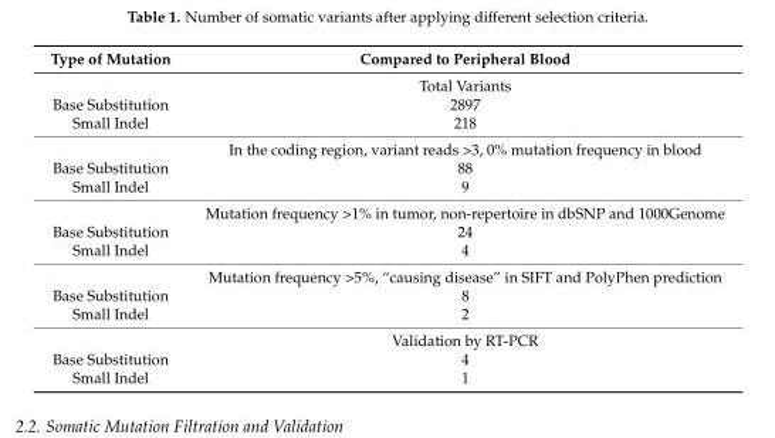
<table><thead><tr><td>Type of Mutation</td><td>Compared to Peripheral Blood</td></tr></thead><tbody><tr><td></td><td>Total Variants</td></tr><tr><td>Base Substitution</td><td>2897</td></tr><tr><td rowspan="2">Small Indel</td><td>218</td></tr><tr><td>In the coding region, variant reads &gt;3, 0% mutation frequency in blood</td></tr><tr><td>Base Substitution</td><td>88</td></tr><tr><td rowspan="2">Small Indel</td><td>9</td></tr><tr><td>Mutation frequency &gt;1% in tumor, non-repertoire in dbSNP and 1000Genome</td></tr><tr><td>Base Substitution</td><td>24</td></tr><tr><td rowspan="2">Small Indel</td><td>4</td></tr><tr><td>Mutation frequency &gt;5%, “causing disease” in SIFT and PolyPhen prediction</td></tr><tr><td>Base Substitution</td><td>8</td></tr><tr><td rowspan="2">Small Indel</td><td>2</td></tr><tr><td>Validation by RT-PCR</td></tr><tr><td>Base Substitution</td><td>4</td></tr><tr><td>Small Indel</td><td>1</td></tr></tbody></table>